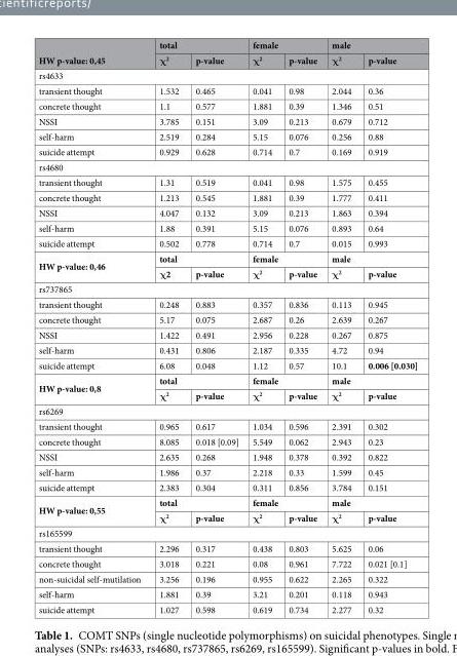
<table><thead><tr><td rowspan="2">HW p-value: 0,45</td><td colspan="2">total</td><td colspan="2">female</td><td colspan="2">male</td></tr><tr><td>χ<sup>2</sup></td><td>p-value</td><td>χ<sup>2</sup></td><td>p-value</td><td>χ<sup>2</sup></td><td>p-value</td></tr></thead><tbody><tr><td colspan="7">rs4633</td></tr><tr><td>transient thought</td><td>1.532</td><td>0.465</td><td>0.041</td><td>0.98</td><td>2.044</td><td>0.36</td></tr><tr><td>concrete thought</td><td>1.1</td><td>0.577</td><td>1.881</td><td>0.39</td><td>1.346</td><td>0.51</td></tr><tr><td>NSSI</td><td>3.785</td><td>0.151</td><td>3.09</td><td>0.213</td><td>0.679</td><td>0.712</td></tr><tr><td>self-harm</td><td>2.519</td><td>0.284</td><td>5.15</td><td>0.076</td><td>0.256</td><td>0.88</td></tr><tr><td>suicide attempt</td><td>0.929</td><td>0.628</td><td>0.714</td><td>0.7</td><td>0.169</td><td>0.919</td></tr><tr><td colspan="7">rs4680</td></tr><tr><td>transient thought</td><td>1.31</td><td>0.519</td><td>0.041</td><td>0.98</td><td>1.575</td><td>0.455</td></tr><tr><td>concrete thought</td><td>1.213</td><td>0.545</td><td>1.881</td><td>0.39</td><td>1.777</td><td>0.411</td></tr><tr><td>NSSI</td><td>4.047</td><td>0.132</td><td>3.09</td><td>0.213</td><td>1.863</td><td>0.394</td></tr><tr><td>self-harm</td><td>1.88</td><td>0.391</td><td>5.15</td><td>0.076</td><td>0.893</td><td>0.64</td></tr><tr><td>suicide attempt</td><td>0.502</td><td>0.778</td><td>0.714</td><td>0.7</td><td>0.015</td><td>0.993</td></tr><tr><td rowspan="2">HW p-value: 0,46</td><td colspan="2">total</td><td colspan="2">female</td><td colspan="2">male</td></tr><tr><td>χ2</td><td>p-value</td><td>χ<sup>2</sup></td><td>p-value</td><td>χ<sup>2</sup></td><td>p-value</td></tr><tr><td colspan="7">rs737865</td></tr><tr><td>transient thought</td><td>0.248</td><td>0.883</td><td>0.357</td><td>0.836</td><td>0.113</td><td>0.945</td></tr><tr><td>concrete thought</td><td>5.17</td><td>0.075</td><td>2.687</td><td>0.26</td><td>2.639</td><td>0.267</td></tr><tr><td>NSSI</td><td>1.422</td><td>0.491</td><td>2.956</td><td>0.228</td><td>0.267</td><td>0.875</td></tr><tr><td>self-harm</td><td>0.431</td><td>0.806</td><td>2.187</td><td>0.335</td><td>4.72</td><td>0.94</td></tr><tr><td>suicide attempt</td><td>6.08</td><td>0.048</td><td>1.12</td><td>0.57</td><td>10.1</td><td>0.006 [0.030]</td></tr><tr><td rowspan="2">HW p-value: 0,8</td><td colspan="2">total</td><td colspan="2">female</td><td colspan="2">male</td></tr><tr><td>χ<sup>2</sup></td><td>p-value</td><td>χ<sup>2</sup></td><td>p-value</td><td>χ<sup>2</sup></td><td>p-value</td></tr><tr><td colspan="7">rs6269</td></tr><tr><td>transient thought</td><td>0.965</td><td>0.617</td><td>1.034</td><td>0.596</td><td>2.391</td><td>0.302</td></tr><tr><td>concrete thought</td><td>8.085</td><td>0.018 [0.09]</td><td>5.549</td><td>0.062</td><td>2.943</td><td>0.23</td></tr><tr><td>NSSI</td><td>2.635</td><td>0.268</td><td>1.948</td><td>0.378</td><td>0.392</td><td>0.822</td></tr><tr><td>self-harm</td><td>1.986</td><td>0.37</td><td>2.218</td><td>0.33</td><td>1.599</td><td>0.45</td></tr><tr><td>suicide attempt</td><td>2.383</td><td>0.304</td><td>0.311</td><td>0.856</td><td>3.784</td><td>0.151</td></tr><tr><td rowspan="2">HW p-value: 0,55</td><td colspan="2">total</td><td colspan="2">female</td><td colspan="2">male</td></tr><tr><td>χ<sup>2</sup></td><td>p-value</td><td>χ<sup>2</sup></td><td>p-value</td><td>χ<sup>2</sup></td><td>p-value</td></tr><tr><td colspan="7">rs165599</td></tr><tr><td>transient thought</td><td>2.296</td><td>0.317</td><td>0.438</td><td>0.803</td><td>5.625</td><td>0.06</td></tr><tr><td>concrete thought</td><td>3.018</td><td>0.221</td><td>0.08</td><td>0.961</td><td>7.722</td><td>0.021 [0.1]</td></tr><tr><td>non-suicidal self-mutilation</td><td>3.256</td><td>0.196</td><td>0.955</td><td>0.622</td><td>2.265</td><td>0.322</td></tr><tr><td>self-harm</td><td>1.881</td><td>0.39</td><td>3.21</td><td>0.201</td><td>0.118</td><td>0.943</td></tr><tr><td>suicide attempt</td><td>1.027</td><td>0.598</td><td>0.619</td><td>0.734</td><td>2.277</td><td>0.32</td></tr></tbody></table>